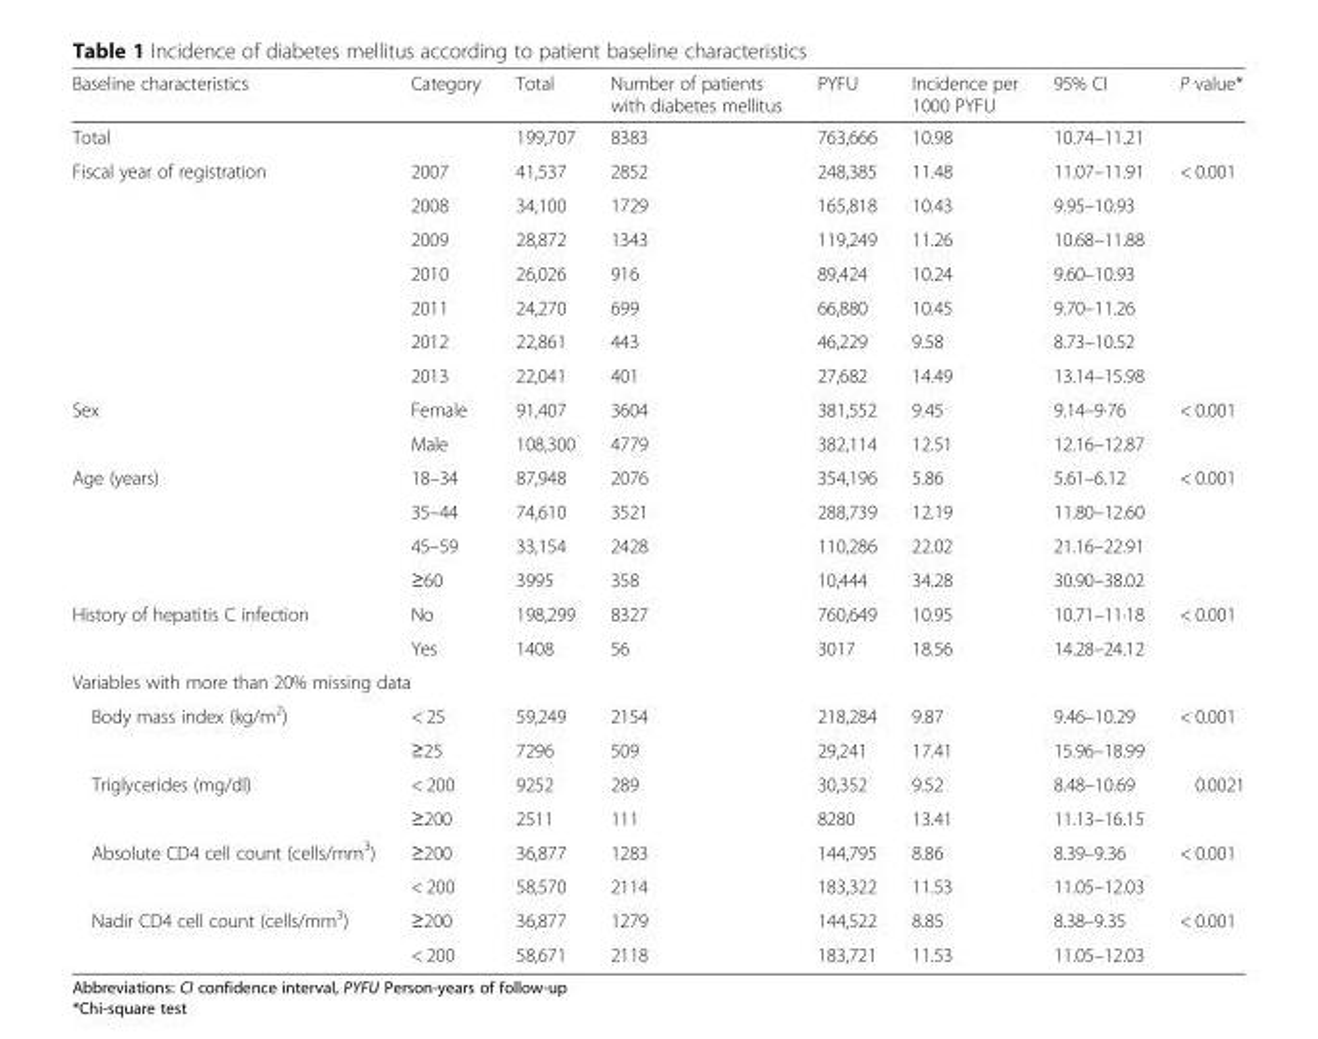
<table><thead><tr><td>Baseline characteristics</td><td>Category</td><td>Total</td><td>Number of patients with diabetes mellitus</td><td>PYFU</td><td>Incidence per 1000 PYFU</td><td>95% CI</td><td>P value*</td></tr></thead><tbody><tr><td>Total</td><td></td><td>199,707</td><td>8383</td><td>763,666</td><td>10.98</td><td>10.74–11.21</td><td></td></tr><tr><td rowspan="7">Fiscal year of registration</td><td>2007</td><td>41,537</td><td>2852</td><td>248,385</td><td>11.48</td><td>11.07–11.91</td><td>&lt; 0.001</td></tr><tr><td>2008</td><td>34,100</td><td>1729</td><td>165,818</td><td>10.43</td><td>9.95–10.93</td><td></td></tr><tr><td>2009</td><td>28,872</td><td>1343</td><td>119,249</td><td>11.26</td><td>10.68–11.88</td><td></td></tr><tr><td>2010</td><td>26,026</td><td>916</td><td>89,424</td><td>10.24</td><td>9.60–10.93</td><td></td></tr><tr><td>2011</td><td>24,270</td><td>699</td><td>66,880</td><td>10.45</td><td>9.70–11.26</td><td></td></tr><tr><td>2012</td><td>22,861</td><td>443</td><td>46,229</td><td>9.58</td><td>8.73–10.52</td><td></td></tr><tr><td>2013</td><td>22,041</td><td>401</td><td>27,682</td><td>14.49</td><td>13.14–15.98</td><td></td></tr><tr><td rowspan="2">Sex</td><td>Female</td><td>91,407</td><td>3604</td><td>381,552</td><td>9.45</td><td>9.14–9·76</td><td>&lt; 0.001</td></tr><tr><td>Male</td><td>108,300</td><td>4779</td><td>382,114</td><td>12.51</td><td>12.16–12.87</td><td></td></tr><tr><td rowspan="4">Age (years)</td><td>18–34</td><td>87,948</td><td>2076</td><td>354,196</td><td>5.86</td><td>5.61–6.12</td><td>&lt; 0.001</td></tr><tr><td>35–44</td><td>74,610</td><td>3521</td><td>288,739</td><td>12.19</td><td>11.80–12.60</td><td></td></tr><tr><td>45–59</td><td>33,154</td><td>2428</td><td>110,286</td><td>22.02</td><td>21.16–22.91</td><td></td></tr><tr><td>≥60</td><td>3995</td><td>358</td><td>10,444</td><td>34.28</td><td>30.90–38.02</td><td></td></tr><tr><td rowspan="2">History of hepatitis C infection</td><td>No</td><td>198,299</td><td>8327</td><td>760,649</td><td>10.95</td><td>10.71–11·18</td><td>&lt; 0.001</td></tr><tr><td>Yes</td><td>1408</td><td>56</td><td>3017</td><td>18.56</td><td>14.28–24.12</td><td></td></tr><tr><td colspan="8">Variables with more than 20% missing data</td></tr><tr><td rowspan="2">Body mass index (kg/m<sup>2</sup>)</td><td>&lt; 25</td><td>59,249</td><td>2154</td><td>218,284</td><td>9.87</td><td>9.46–10.29</td><td>&lt; 0.001</td></tr><tr><td>≥25</td><td>7296</td><td>509</td><td>29,241</td><td>17.41</td><td>15.96–18.99</td><td></td></tr><tr><td rowspan="2">Triglycerides (mg/dl)</td><td>&lt; 200</td><td>9252</td><td>289</td><td>30,352</td><td>9.52</td><td>8.48–10.69</td><td>0.0021</td></tr><tr><td>≥200</td><td>2511</td><td>111</td><td>8280</td><td>13.41</td><td>11.13–16.15</td><td></td></tr><tr><td rowspan="2">Absolute CD4 cell count (cells/mm<sup>3</sup>)</td><td>≥200</td><td>36,877</td><td>1283</td><td>144,795</td><td>8.86</td><td>8.39–9.36</td><td>&lt; 0.001</td></tr><tr><td>&lt; 200</td><td>58,570</td><td>2114</td><td>183,322</td><td>11.53</td><td>11.05–12.03</td><td></td></tr><tr><td rowspan="2">Nadir CD4 cell count (cells/mm<sup>3</sup>)</td><td>≥200</td><td>36,877</td><td>1279</td><td>144,522</td><td>8.85</td><td>8.38–9.35</td><td>&lt; 0.001</td></tr><tr><td>&lt; 200</td><td>58,671</td><td>2118</td><td>183,721</td><td>11.53</td><td>11.05–12.03</td><td></td></tr></tbody></table>